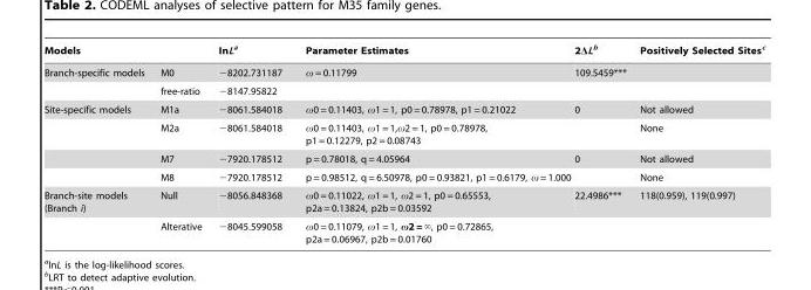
<table><thead><tr><td colspan="2">Models</td><td rowspan="2">InLa −8202.731187</td><td rowspan="2">Parameter Estimates ω = 0.11799</td><td rowspan="2">2ΔLb 109.5459***</td><td rowspan="2">Positively Selected Sites<sup>c</sup></td></tr><tr><td>Branch-specific models</td><td>M0</td></tr></thead><tbody><tr><td></td><td>free-ratio</td><td>−8147.95822</td><td></td><td></td><td></td></tr><tr><td rowspan="4">Site-specific models</td><td>M1a</td><td>−8061.584018</td><td>ω0 = 0.11403, ω1 = 1, p0 = 0.78978, p1 = 0.21022</td><td>0</td><td>Not allowed</td></tr><tr><td>M2a</td><td>−8061.584018</td><td>ω0 = 0.11403, ω1 = 1,ω2 = 1, p0 = 0.78978, p1 = 0.12279, p2 = 0.08743</td><td></td><td>None</td></tr><tr><td>M7</td><td>−7920.178512</td><td>p = 0.78018, q = 4.05964</td><td>0</td><td>Not allowed</td></tr><tr><td>M8</td><td>−7920.178512</td><td>p = 0.98512, q = 6.50978, p0 = 0.93821, p1 = 0.6179, ω = 1.000</td><td></td><td>None</td></tr><tr><td rowspan="2">Branch-site models (Branch i)</td><td>Null</td><td>−8056.848368</td><td>ω0 = 0.11022, ω1 = 1, ω2 = 1, p0 = 0.65553, p2a = 0.13824, p2b = 0.03592</td><td>22.4986***</td><td>118(0.959), 119(0.997)</td></tr><tr><td>Alterative</td><td>−8045.599058</td><td>v0 = 0.11079, v1 = 1, v2 = ‘, p0 = 0.72865, p2a = 0.06967, p2b = 0.01760</td><td></td><td></td></tr></tbody></table>